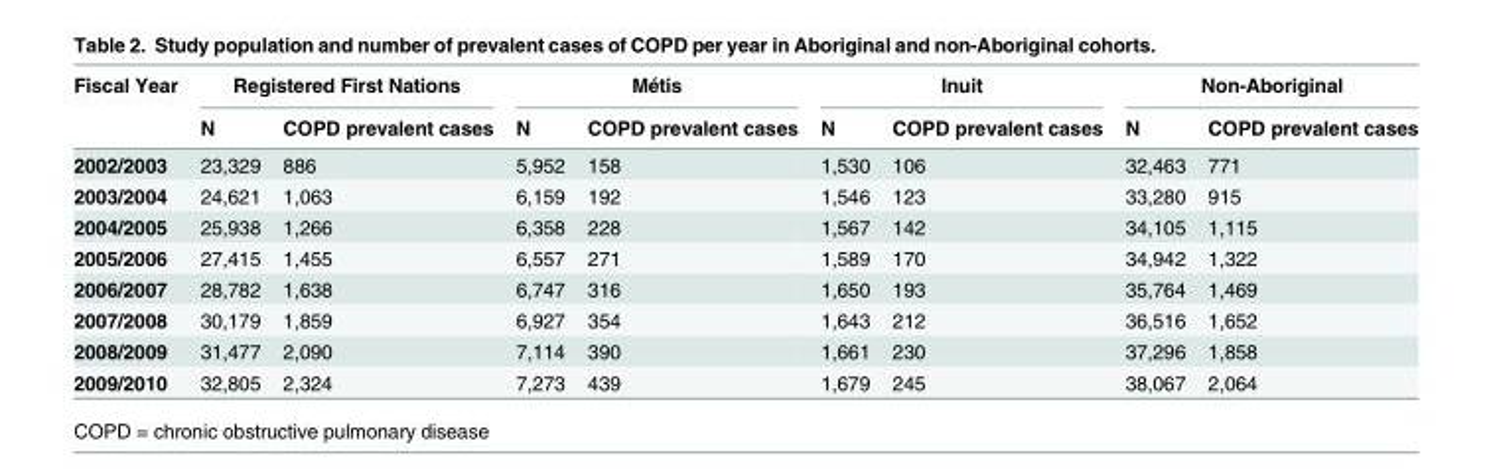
<table><thead><tr><td rowspan="2">Fiscal Year</td><td colspan="2">Registered First Nations</td><td colspan="2">Métis</td><td colspan="2">Inuit</td><td colspan="2">Non-Aboriginal</td></tr><tr><td>N</td><td>COPD prevalent cases</td><td>N</td><td>COPD prevalent cases</td><td>N</td><td>COPD prevalent cases</td><td>N</td><td>COPD prevalent cases</td></tr></thead><tbody><tr><td>2002/2003</td><td>23,329</td><td>886</td><td>5,952</td><td>158</td><td>1,530</td><td>106</td><td>32,463</td><td>771</td></tr><tr><td>2003/2004</td><td>24,621</td><td>1,063</td><td>6,159</td><td>192</td><td>1,546</td><td>123</td><td>33,280</td><td>915</td></tr><tr><td>2004/2005</td><td>25,938</td><td>1,266</td><td>6,358</td><td>228</td><td>1,567</td><td>142</td><td>34,105</td><td>1,115</td></tr><tr><td>2005/2006</td><td>27,415</td><td>1,455</td><td>6,557</td><td>271</td><td>1,589</td><td>170</td><td>34,942</td><td>1,322</td></tr><tr><td>2006/2007</td><td>28,782</td><td>1,638</td><td>6,747</td><td>316</td><td>1,650</td><td>193</td><td>35,764</td><td>1,469</td></tr><tr><td>2007/2008</td><td>30,179</td><td>1,859</td><td>6,927</td><td>354</td><td>1,643</td><td>212</td><td>36,516</td><td>1,652</td></tr><tr><td>2008/2009</td><td>31,477</td><td>2,090</td><td>7,114</td><td>390</td><td>1,661</td><td>230</td><td>37,296</td><td>1,858</td></tr><tr><td>2009/2010</td><td>32,805</td><td>2,324</td><td>7,273</td><td>439</td><td>1,679</td><td>245</td><td>38,067</td><td>2,064</td></tr></tbody></table>